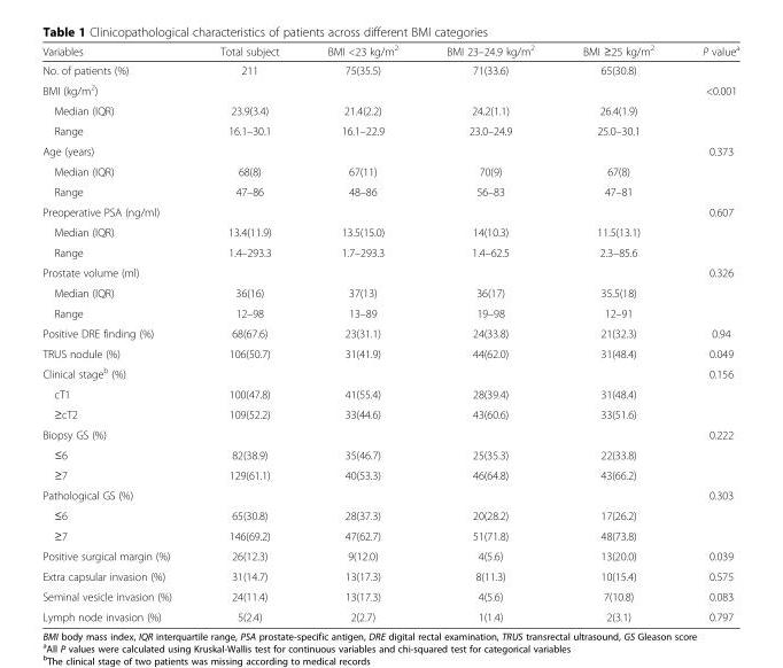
<table><thead><tr><td>Variables</td><td>Total subject</td><td>BMI &lt;23 kg/m<sup>2</sup></td><td>BMI 23–24.9 kg/m<sup>2</sup></td><td>BMI ≥25 kg/m<sup>2</sup></td><td>P value<sup>a</sup></td></tr></thead><tbody><tr><td>No. of patients (%)</td><td>211</td><td>75(35.5)</td><td>71(33.6)</td><td>65(30.8)</td><td></td></tr><tr><td>BMI (kg/m<sup>2</sup>)</td><td></td><td></td><td></td><td></td><td>&lt;0.001</td></tr><tr><td>Median (IQR)</td><td>23.9(3.4)</td><td>21.4(2.2)</td><td>24.2(1.1)</td><td>26.4(1.9)</td><td></td></tr><tr><td>Range</td><td>16.1–30.1</td><td>16.1–22.9</td><td>23.0–24.9</td><td>25.0–30.1</td><td></td></tr><tr><td>Age (years)</td><td></td><td></td><td></td><td></td><td>0.373</td></tr><tr><td>Median (IQR)</td><td>68(8)</td><td>67(11)</td><td>70(9)</td><td>67(8)</td><td></td></tr><tr><td>Range</td><td>47–86</td><td>48–86</td><td>56–83</td><td>47–81</td><td></td></tr><tr><td>Preoperative PSA (ng/ml)</td><td></td><td></td><td></td><td></td><td>0.607</td></tr><tr><td>Median (IQR)</td><td>13.4(11.9)</td><td>13.5(15.0)</td><td>14(10.3)</td><td>11.5(13.1)</td><td></td></tr><tr><td>Range</td><td>1.4–293.3</td><td>1.7–293.3</td><td>1.4–62.5</td><td>2.3–85.6</td><td></td></tr><tr><td>Prostate volume (ml)</td><td></td><td></td><td></td><td></td><td>0.326</td></tr><tr><td>Median (IQR)</td><td>36(16)</td><td>37(13)</td><td>36(17)</td><td>35.5(18)</td><td></td></tr><tr><td>Range</td><td>12–98</td><td>13–89</td><td>19–98</td><td>12–91</td><td></td></tr><tr><td>Positive DRE finding (%)</td><td>68(67.6)</td><td>23(31.1)</td><td>24(33.8)</td><td>21(32.3)</td><td>0.94</td></tr><tr><td>TRUS nodule (%)</td><td>106(50.7)</td><td>31(41.9)</td><td>44(62.0)</td><td>31(48.4)</td><td>0.049</td></tr><tr><td>Clinical stage<sup>b</sup> (%)</td><td></td><td></td><td></td><td></td><td>0.156</td></tr><tr><td>cT1</td><td>100(47.8)</td><td>41(55.4)</td><td>28(39.4)</td><td>31(48.4)</td><td></td></tr><tr><td>≥cT2</td><td>109(52.2)</td><td>33(44.6)</td><td>43(60.6)</td><td>33(51.6)</td><td></td></tr><tr><td>Biopsy GS (%)</td><td></td><td></td><td></td><td></td><td>0.222</td></tr><tr><td>≤6</td><td>82(38.9)</td><td>35(46.7)</td><td>25(35.3)</td><td>22(33.8)</td><td></td></tr><tr><td>≥7</td><td>129(61.1)</td><td>40(53.3)</td><td>46(64.8)</td><td>43(66.2)</td><td></td></tr><tr><td>Pathological GS (%)</td><td></td><td></td><td></td><td></td><td>0.303</td></tr><tr><td>≤6</td><td>65(30.8)</td><td>28(37.3)</td><td>20(28.2)</td><td>17(26.2)</td><td></td></tr><tr><td>≥7</td><td>146(69.2)</td><td>47(62.7)</td><td>51(71.8)</td><td>48(73.8)</td><td></td></tr><tr><td>Positive surgical margin (%)</td><td>26(12.3)</td><td>9(12.0)</td><td>4(5.6)</td><td>13(20.0)</td><td>0.039</td></tr><tr><td>Extra capsular invasion (%)</td><td>31(14.7)</td><td>13(17.3)</td><td>8(11.3)</td><td>10(15.4)</td><td>0.575</td></tr><tr><td>Seminal vesicle invasion (%)</td><td>24(11.4)</td><td>13(17.3)</td><td>4(5.6)</td><td>7(10.8)</td><td>0.083</td></tr><tr><td>Lymph node invasion (%)</td><td>5(2.4)</td><td>2(2.7)</td><td>1(1.4)</td><td>2(3.1)</td><td>0.797</td></tr></tbody></table>